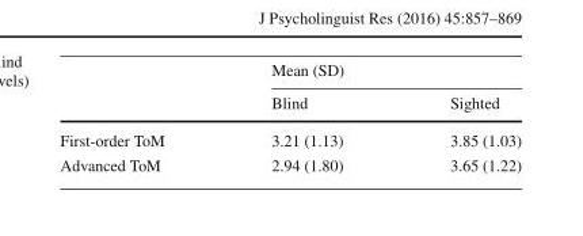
<table><thead><tr><td rowspan="2"></td><td colspan="2">Mean (SD)</td></tr><tr><td>Blind</td><td>Sighted</td></tr></thead><tbody><tr><td>First-order ToM</td><td>3.21 (1.13)</td><td>3.85 (1.03)</td></tr><tr><td>Advanced ToM</td><td>2.94 (1.80)</td><td>3.65 (1.22)</td></tr></tbody></table>